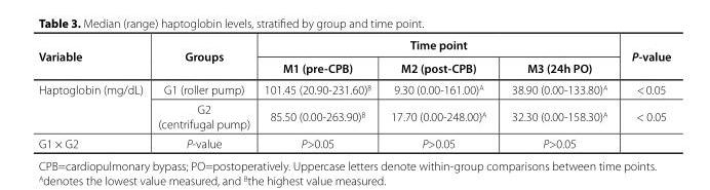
<table><thead><tr><td rowspan="2">Variable</td><td rowspan="2">Groups</td><td colspan="3">Time point</td><td rowspan="2">P-value</td></tr><tr><td>M1 (pre-CPB)</td><td>M2 (post-CPB)</td><td>M3 (24h PO)</td></tr></thead><tbody><tr><td rowspan="2">Haptoglobin (mg/dL)</td><td>G1 (roller pump)</td><td>101.45 (20.90-231.60)<sup>B</sup></td><td>9.30 (0.00-161.00)<sup>A</sup></td><td>38.90 (0.00-133.80)<sup>A</sup></td><td>&lt; 0.05</td></tr><tr><td>G2 (centrifugal pump)</td><td>85.50 (0.00-263.90)<sup>B</sup></td><td>17.70 (0.00-248.00)<sup>A</sup></td><td>32.30 (0.00-158.30)<sup>A</sup></td><td>&lt; 0.05</td></tr><tr><td>G1 × G2</td><td>P-value</td><td>P&gt;0.05</td><td>P&gt;0.05</td><td>P&gt;0.05</td><td></td></tr></tbody></table>